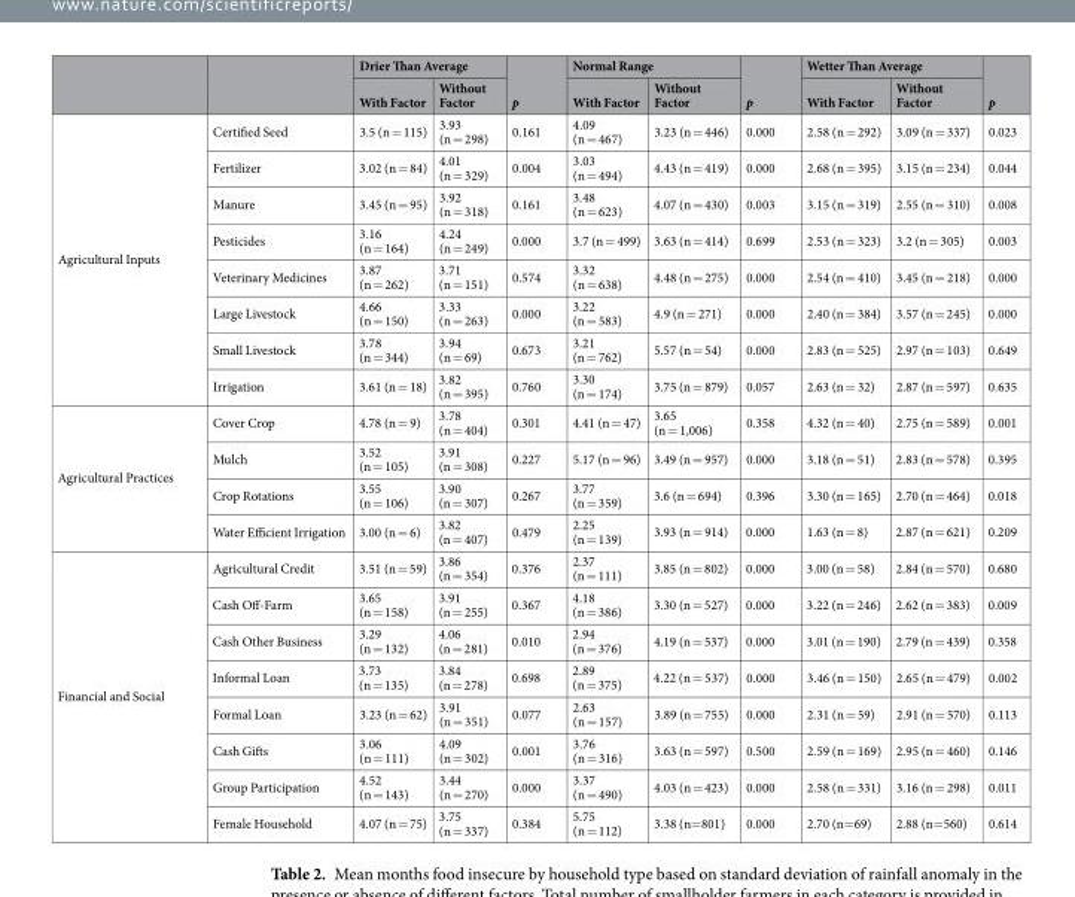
<table><thead><tr><td rowspan="2"></td><td rowspan="2"></td><td colspan="2">Drier Than Average</td><td rowspan="2">p</td><td colspan="2">Normal Range</td><td rowspan="2">p</td><td colspan="2">Wetter Than Average</td><td rowspan="2">p</td></tr><tr><td>With Factor</td><td>Without Factor</td><td>With Factor</td><td>Without Factor</td><td>With Factor</td><td>Without Factor</td></tr></thead><tbody><tr><td rowspan="8">Agricultural Inputs</td><td>Certified Seed</td><td>3.5 (n = 115)</td><td>3.93 (n = 298)</td><td>0.161</td><td>4.09 (n = 467)</td><td>3.23 (n = 446)</td><td>0.000</td><td>2.58 (n = 292)</td><td>3.09 (n = 337)</td><td>0.023</td></tr><tr><td>Fertilizer</td><td>3.02 (n = 84)</td><td>4.01 (n = 329)</td><td>0.004</td><td>3.03 (n = 494)</td><td>4.43 (n = 419)</td><td>0.000</td><td>2.68 (n = 395)</td><td>3.15 (n = 234)</td><td>0.044</td></tr><tr><td>Manure</td><td>3.45 (n = 95)</td><td>3.92 (n = 318)</td><td>0.161</td><td>3.48 (n = 623)</td><td>4.07 (n = 430)</td><td>0.003</td><td>3.15 (n = 319)</td><td>2.55 (n = 310)</td><td>0.008</td></tr><tr><td>Pesticides</td><td>3.16 (n = 164)</td><td>4.24 (n = 249)</td><td>0.000</td><td>3.7 (n = 499)</td><td>3.63 (n = 414)</td><td>0.699</td><td>2.53 (n = 323)</td><td>3.2 (n = 305)</td><td>0.003</td></tr><tr><td>Veterinary Medicines</td><td>3.87 (n = 262)</td><td>3.71 (n = 151)</td><td>0.574</td><td>3.32 (n = 638)</td><td>4.48 (n = 275)</td><td>0.000</td><td>2.54 (n = 410)</td><td>3.45 (n = 218)</td><td>0.000</td></tr><tr><td>Large Livestock</td><td>4.66 (n = 150)</td><td>3.33 (n = 263)</td><td>0.000</td><td>3.22 (n = 583)</td><td>4.9 (n = 271)</td><td>0.000</td><td>2.40 (n = 384)</td><td>3.57 (n = 245)</td><td>0.000</td></tr><tr><td>Small Livestock</td><td>3.78 (n = 344)</td><td>3.94 (n = 69)</td><td>0.673</td><td>3.21 (n = 762)</td><td>5.57 (n = 54)</td><td>0.000</td><td>2.83 (n = 525)</td><td>2.97 (n = 103)</td><td>0.649</td></tr><tr><td>Irrigation</td><td>3.61 (n = 18)</td><td>3.82 (n = 395)</td><td>0.760</td><td>3.30 (n = 174)</td><td>3.75 (n = 879)</td><td>0.057</td><td>2.63 (n = 32)</td><td>2.87 (n = 597)</td><td>0.635</td></tr><tr><td rowspan="4">Agricultural Practices</td><td>Cover Crop</td><td>4.78 (n = 9)</td><td>3.78 (n = 404)</td><td>0.301</td><td>4.41 (n = 47)</td><td>3.65 (n = 1,006)</td><td>0.358</td><td>4.32 (n = 40)</td><td>2.75 (n = 589)</td><td>0.001</td></tr><tr><td>Mulch</td><td>3.52 (n = 105)</td><td>3.91 (n = 308)</td><td>0.227</td><td>5.17 (n = 96)</td><td>3.49 (n = 957)</td><td>0.000</td><td>3.18 (n = 51)</td><td>2.83 (n = 578)</td><td>0.395</td></tr><tr><td>Crop Rotations</td><td>3.55 (n = 106)</td><td>3.90 (n = 307)</td><td>0.267</td><td>3.77 (n = 359)</td><td>3.6 (n = 694)</td><td>0.396</td><td>3.30 (n = 165)</td><td>2.70 (n = 464)</td><td>0.018</td></tr><tr><td>Water Efficient Irrigation</td><td>3.00 (n = 6)</td><td>3.82 (n = 407)</td><td>0.479</td><td>2.25 (n = 139)</td><td>3.93 (n = 914)</td><td>0.000</td><td>1.63 (n = 8)</td><td>2.87 (n = 621)</td><td>0.209</td></tr><tr><td rowspan="8">Financial and Social</td><td>Agricultural Credit</td><td>3.51 (n = 59)</td><td>3.86 (n = 354)</td><td>0.376</td><td>2.37 (n = 111)</td><td>3.85 (n = 802)</td><td>0.000</td><td>3.00 (n = 58)</td><td>2.84 (n = 570)</td><td>0.680</td></tr><tr><td>Cash Off-Farm</td><td>3.65 (n = 158)</td><td>3.91 (n = 255)</td><td>0.367</td><td>4.18 (n = 386)</td><td>3.30 (n = 527)</td><td>0.000</td><td>3.22 (n = 246)</td><td>2.62 (n = 383)</td><td>0.009</td></tr><tr><td>Cash Other Business</td><td>3.29 (n = 132)</td><td>4.06 (n = 281)</td><td>0.010</td><td>2.94 (n = 376)</td><td>4.19 (n = 537)</td><td>0.000</td><td>3.01 (n = 190)</td><td>2.79 (n = 439)</td><td>0.358</td></tr><tr><td>Informal Loan</td><td>3.73 (n = 135)</td><td>3.84 (n = 278)</td><td>0.698</td><td>2.89 (n = 375)</td><td>4.22 (n = 537)</td><td>0.000</td><td>3.46 (n = 150)</td><td>2.65 (n = 479)</td><td>0.002</td></tr><tr><td>Formal Loan</td><td>3.23 (n = 62)</td><td>3.91 (n = 351)</td><td>0.077</td><td>2.63 (n = 157)</td><td>3.89 (n = 755)</td><td>0.000</td><td>2.31 (n = 59)</td><td>2.91 (n = 570)</td><td>0.113</td></tr><tr><td>Cash Gifts</td><td>3.06 (n = 111)</td><td>4.09 (n = 302)</td><td>0.001</td><td>3.76 (n = 316)</td><td>3.63 (n = 597)</td><td>0.500</td><td>2.59 (n = 169)</td><td>2.95 (n = 460)</td><td>0.146</td></tr><tr><td>Group Participation</td><td>4.52 (n = 143)</td><td>3.44 (n = 270)</td><td>0.000</td><td>3.37 (n = 490)</td><td>4.03 (n = 423)</td><td>0.000</td><td>2.58 (n = 331)</td><td>3.16 (n = 298)</td><td>0.011</td></tr><tr><td>Female Household</td><td>4.07 (n = 75)</td><td>3.75 (n = 337)</td><td>0.384</td><td>5.75 (n = 112)</td><td>3.38 (n=801)</td><td>0.000</td><td>2.70 (n=69)</td><td>2.88 (n=560)</td><td>0.614</td></tr></tbody></table>